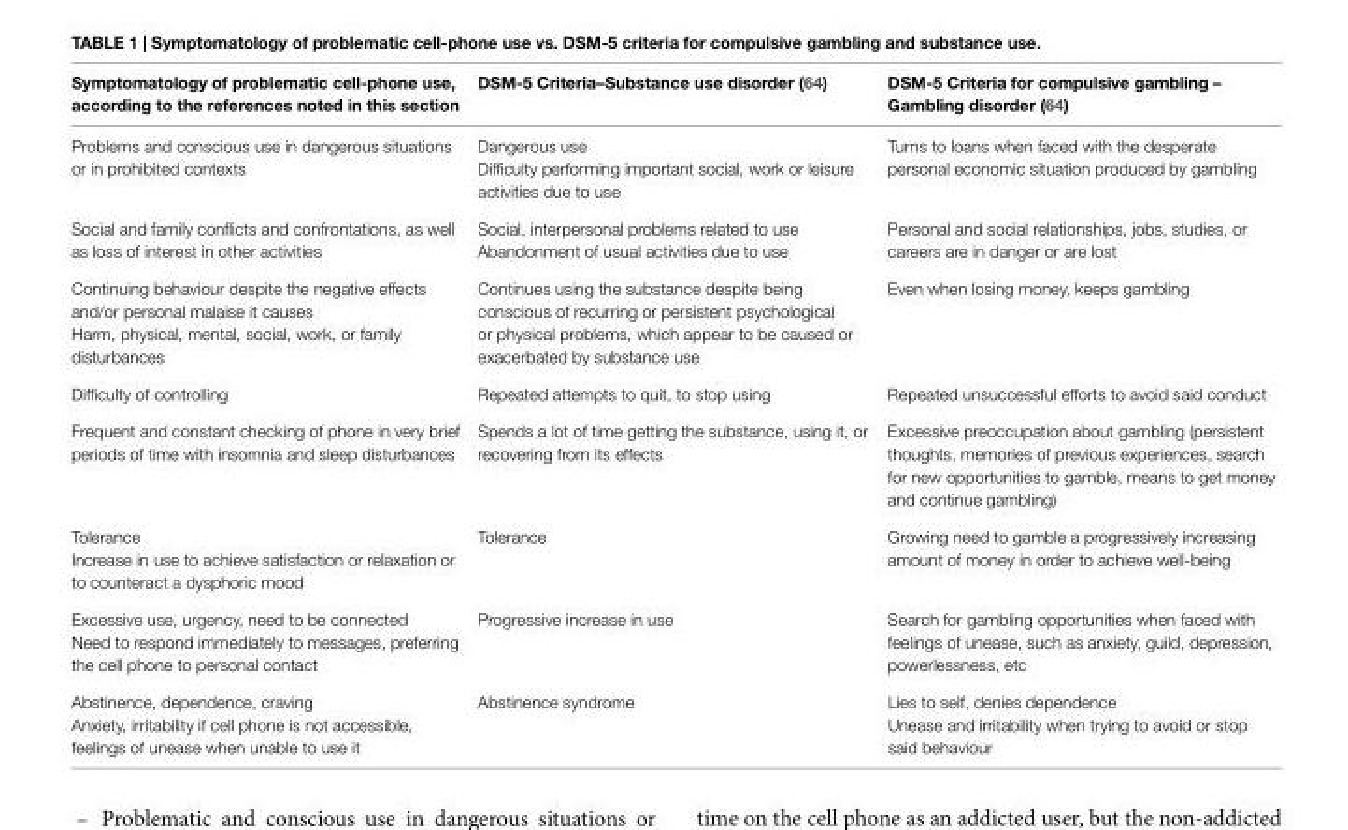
<table><thead><tr><td>Symptomatology of problematic cell-phone use, according to the references noted in this section</td><td>DSM-5 Criteria–Substance use disorder (64)</td><td>DSM-5 Criteria for compulsive gambling – Gambling disorder (64)</td></tr></thead><tbody><tr><td rowspan="2">Problems and conscious use in dangerous situations or in prohibited contexts</td><td>Dangerous use</td><td rowspan="2">Turns to loans when faced with the desperate personal economic situation produced by gambling</td></tr><tr><td>Difficulty performing important social, work or leisure activities due to use</td></tr><tr><td rowspan="2">Social and family conflicts and confrontations, as well as loss of interest in other activities</td><td>Social, interpersonal problems related to use</td><td rowspan="2">Personal and social relationships, jobs, studies, or careers are in danger or are lost</td></tr><tr><td>Abandonment of usual activities due to use</td></tr><tr><td>Continuing behaviour despite the negative effects and/or personal malaise it causes</td><td rowspan="2">Continues using the substance despite being conscious of recurring or persistent psychological or physical problems, which appear to be caused or exacerbated by substance use</td><td rowspan="2">Even when losing money, keeps gambling</td></tr><tr><td>Harm, physical, mental, social, work, or family disturbances</td></tr><tr><td>Difficulty of controlling</td><td>Repeated attempts to quit, to stop using</td><td>Repeated unsuccessful efforts to avoid said conduct</td></tr><tr><td>Frequent and constant checking of phone in very brief periods of time with insomnia and sleep disturbances</td><td>Spends a lot of time getting the substance, using it, or recovering from its effects</td><td>Excessive preoccupation about gambling (persistent thoughts, memories of previous experiences, search for new opportunities to gamble, means to get money and continue gambling)</td></tr><tr><td>Tolerance</td><td rowspan="2">Tolerance</td><td rowspan="2">Growing need to gamble a progressively increasing amount of money in order to achieve well-being</td></tr><tr><td>Increase in use to achieve satisfaction or relaxation or to counteract a dysphoric mood</td></tr><tr><td>Excessive use, urgency, need to be connected</td><td rowspan="2">Progressive increase in use</td><td rowspan="2">Search for gambling opportunities when faced with feelings of unease, such as anxiety, guild, depression, powerlessness, etc</td></tr><tr><td>Need to respond immediately to messages, preferring the cell phone to personal contact</td></tr><tr><td>Abstinence, dependence, craving</td><td rowspan="2">Abstinence syndrome</td><td>Lies to self, denies dependence</td></tr><tr><td>Anxiety, irritability if cell phone is not accessible, feelings of unease when unable to use it</td><td>Unease and irritability when trying to avoid or stop said behaviour</td></tr></tbody></table>